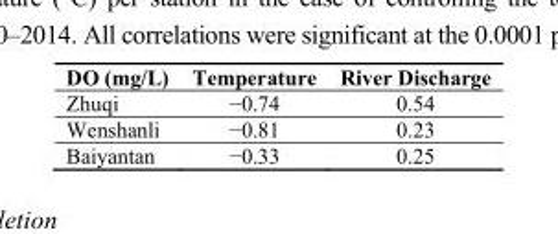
<table><thead><tr><td>DO (mg/L)</td><td>Temperature</td><td>River Discharge</td></tr></thead><tbody><tr><td>Zhuqi</td><td>−0.74</td><td>0.54</td></tr><tr><td>Wenshanli</td><td>−0.81</td><td>0.23</td></tr><tr><td>Baiyantan</td><td>−0.33</td><td>0.25</td></tr></tbody></table>